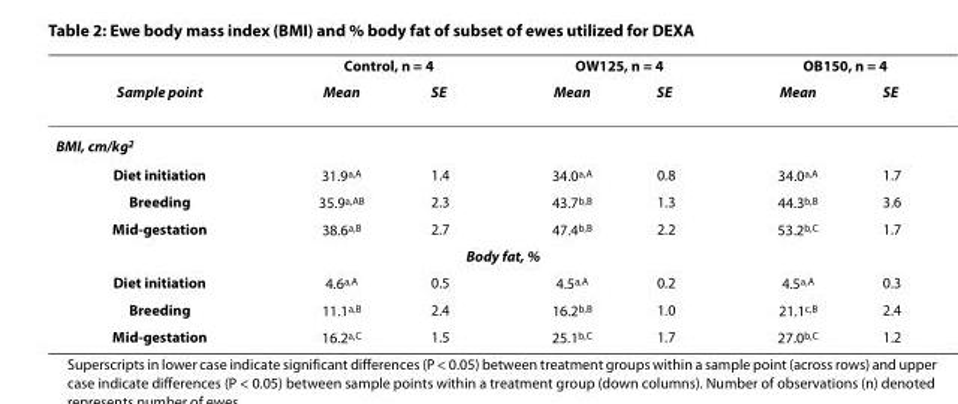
<table><thead><tr><td rowspan="2">Sample point</td><td colspan="2">Control, n = 4</td><td colspan="2">OW125, n = 4</td><td colspan="2">OB150, n = 4</td></tr><tr><td>Mean</td><td>SE</td><td>Mean</td><td>SE</td><td>Mean</td><td>SE</td></tr></thead><tbody><tr><td colspan="7">BMI, cm/kg<sup>2</sup></td></tr><tr><td>Diet initiation</td><td>31.9<sup>a,A</sup></td><td>1.4</td><td>34.0<sup>a,A</sup></td><td>0.8</td><td>34.0<sup>a,A</sup></td><td>1.7</td></tr><tr><td>Breeding</td><td>35.9<sup>a,AB</sup></td><td>2.3</td><td>43.7<sup>b,B</sup></td><td>1.3</td><td>44.3<sup>b,B</sup></td><td>3.6</td></tr><tr><td>Mid-gestation</td><td>38.6<sup>a,B</sup></td><td>2.7</td><td>47.4<sup>b,B</sup></td><td>2.2</td><td>53.2<sup>b,C</sup></td><td>1.7</td></tr><tr><td colspan="7">Body fat, %</td></tr><tr><td>Diet initiation</td><td>4.6<sup>a,A</sup></td><td>0.5</td><td>4.5<sup>a,A</sup></td><td>0.2</td><td>4.5<sup>a,A</sup></td><td>0.3</td></tr><tr><td>Breeding</td><td>11.1<sup>a,B</sup></td><td>2.4</td><td>16.2<sup>b,B</sup></td><td>1.0</td><td>21.1<sup>c,B</sup></td><td>2.4</td></tr><tr><td>Mid-gestation</td><td>16.2<sup>a,C</sup></td><td>1.5</td><td>25.1<sup>b,C</sup></td><td>1.7</td><td>27.0<sup>b,C</sup></td><td>1.2</td></tr></tbody></table>